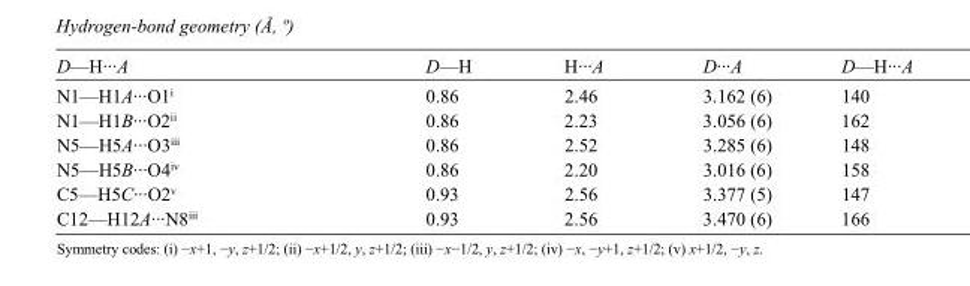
<table><tbody><tr><td>D—H···A</td><td>D—H</td><td>H···A</td><td>D···A</td><td>D—H···A</td></tr><tr><td>N1—H1A···O1<sup>i</sup></td><td>0.86</td><td>2.46</td><td>3.162 (6)</td><td>140</td></tr><tr><td>N1—H1B···O2<sup>ii</sup></td><td>0.86</td><td>2.23</td><td>3.056 (6)</td><td>162</td></tr><tr><td>N5—H5A···O3<sup>iii</sup></td><td>0.86</td><td>2.52</td><td>3.285 (6)</td><td>148</td></tr><tr><td>N5—H5B···O4<sup>iv</sup></td><td>0.86</td><td>2.20</td><td>3.016 (6)</td><td>158</td></tr><tr><td>C5—H5C···O2<sup>v</sup></td><td>0.93</td><td>2.56</td><td>3.377 (5)</td><td>147</td></tr><tr><td>C12—H12A···N8<sup>iii</sup></td><td>0.93</td><td>2.56</td><td>3.470 (6)</td><td>166</td></tr></tbody></table>